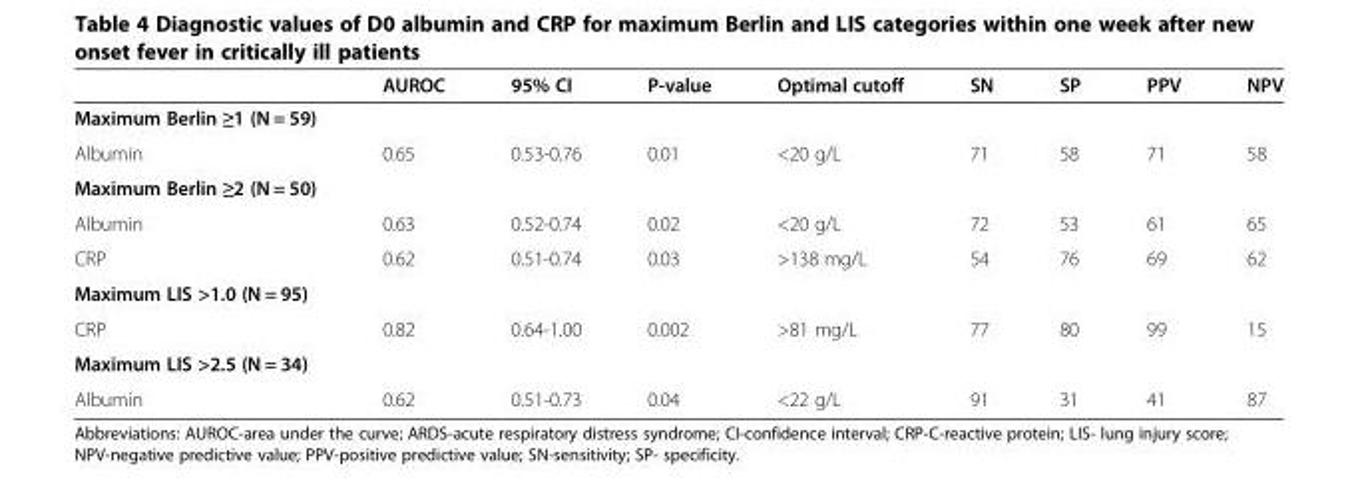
<table><thead><tr><td></td><td>AUROC</td><td>95% CI</td><td>P-value</td><td>Optimal cutoff</td><td>SN</td><td>SP</td><td>PPV</td><td>NPV</td></tr></thead><tbody><tr><td colspan="9">Maximum Berlin ≥1 (N = 59)</td></tr><tr><td>Albumin</td><td>0.65</td><td>0.53-0.76</td><td>0.01</td><td>&lt;20 g/L</td><td>71</td><td>58</td><td>71</td><td>58</td></tr><tr><td colspan="9">Maximum Berlin ≥2 (N = 50)</td></tr><tr><td>Albumin</td><td>0.63</td><td>0.52-0.74</td><td>0.02</td><td>&lt;20 g/L</td><td>72</td><td>53</td><td>61</td><td>65</td></tr><tr><td>CRP</td><td>0.62</td><td>0.51-0.74</td><td>0.03</td><td>&gt;138 mg/L</td><td>54</td><td>76</td><td>69</td><td>62</td></tr><tr><td colspan="9">Maximum LIS &gt;1.0 (N = 95)</td></tr><tr><td>CRP</td><td>0.82</td><td>0.64-1.00</td><td>0.002</td><td>&gt;81 mg/L</td><td>77</td><td>80</td><td>99</td><td>15</td></tr><tr><td colspan="9">Maximum LIS &gt;2.5 (N = 34)</td></tr><tr><td>Albumin</td><td>0.62</td><td>0.51-0.73</td><td>0.04</td><td>&lt;22 g/L</td><td>91</td><td>31</td><td>41</td><td>87</td></tr></tbody></table>